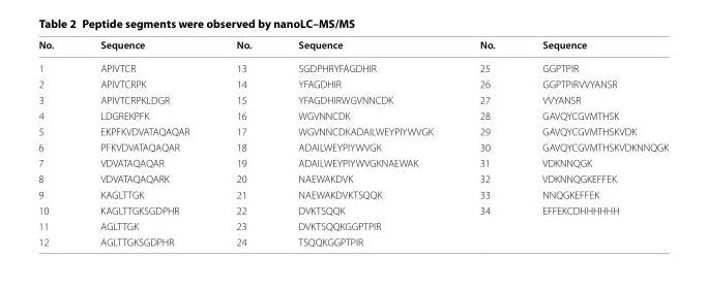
<table><thead><tr><td>No.</td><td>Sequence</td><td>No.</td><td>Sequence</td><td>No.</td><td>Sequence</td></tr></thead><tbody><tr><td>1</td><td>APIVTCR</td><td>13</td><td>SGDPHRYFAGDHIR</td><td>25</td><td>GGPTPIR</td></tr><tr><td>2</td><td>APIVTCRPK</td><td>14</td><td>YFAGDHIR</td><td>26</td><td>GGPTPIRVVYANSR</td></tr><tr><td>3</td><td>APIVTCRPKLDGR</td><td>15</td><td>YFAGDHIRWGVNNCDK</td><td>27</td><td>VVYANSR</td></tr><tr><td>4</td><td>LDGREKPFK</td><td>16</td><td>WGVNNCDK</td><td>28</td><td>GAVQYCGVMTHSK</td></tr><tr><td>5</td><td>EKPFKVDVATAQAQAR</td><td>17</td><td>WGVNNCDKADAILWEYPIYWVGK</td><td>29</td><td>GAVQYCGVMTHSKVDK</td></tr><tr><td>6</td><td>PFKVDVATAQAQAR</td><td>18</td><td>ADAILWEYPIYWVGK</td><td>30</td><td>GAVQYCGVMTHSKVDKNNQGK</td></tr><tr><td>7</td><td>VDVATAQAQAR</td><td>19</td><td>ADAILWEYPIYWVGKNAEWAK</td><td>31</td><td>VDKNNQGK</td></tr><tr><td>8</td><td>VDVATAQAQARK</td><td>20</td><td>NAEWAKDVK</td><td>32</td><td>VDKNNQGKEFFEK</td></tr><tr><td>9</td><td>KAGLTTGK</td><td>21</td><td>NAEWAKDVKTSQQK</td><td>33</td><td>NNQGKEFFEK</td></tr><tr><td>10</td><td>KAGLTTGKSGDPHR</td><td>22</td><td>DVKTSQQK</td><td>34</td><td>EFFEKCDHHHHHH</td></tr><tr><td>11</td><td>AGLTTGK</td><td>23</td><td>DVKTSQQKGGPTPIR</td><td></td><td></td></tr><tr><td>12</td><td>AGLTTGKSGDPHR</td><td>24</td><td>TSQQKGGPTPIR</td><td></td><td></td></tr></tbody></table>